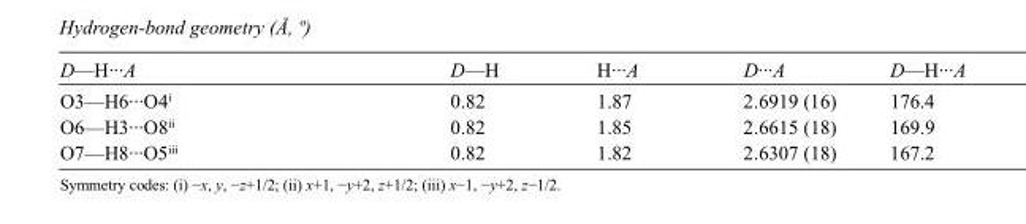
<table><tbody><tr><td>D—H···A</td><td>D—H</td><td>H···A</td><td>D···A</td><td>D—H···A</td></tr><tr><td>O3—H6···O4<sup>i</sup></td><td>0.82</td><td>1.87</td><td>2.6919 (16)</td><td>176.4</td></tr><tr><td>O6—H3···O8<sup>ii</sup></td><td>0.82</td><td>1.85</td><td>2.6615 (18)</td><td>169.9</td></tr><tr><td>O7—H8···O5<sup>iii</sup></td><td>0.82</td><td>1.82</td><td>2.6307 (18)</td><td>167.2</td></tr></tbody></table>